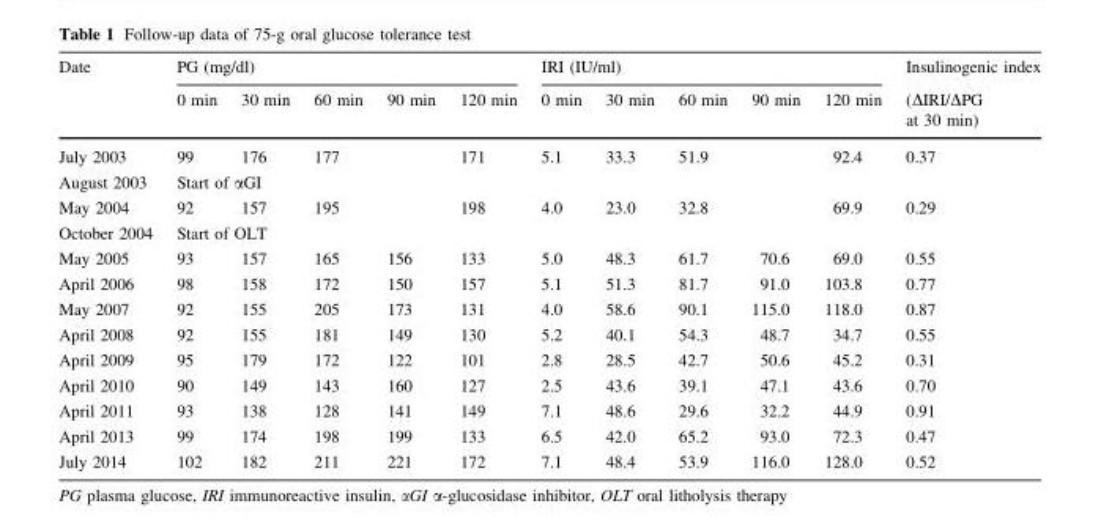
<table><thead><tr><td rowspan="2">Date</td><td colspan="5">PG (mg/dl)</td><td colspan="5">IRI (IU/ml)</td><td rowspan="2">Insulinogenic index (ΔIRI/ΔPG at 30 min)</td></tr><tr><td>0 min</td><td>30 min</td><td>60 min</td><td>90 min</td><td>120 min</td><td>0 min</td><td>30 min</td><td>60 min</td><td>90 min</td><td>120 min</td></tr></thead><tbody><tr><td>July 2003</td><td>99</td><td>176</td><td>177</td><td></td><td>171</td><td>5.1</td><td>33.3</td><td>51.9</td><td></td><td>92.4</td><td>0.37</td></tr><tr><td>August 2003</td><td colspan="11">Start of αGI</td></tr><tr><td>May 2004</td><td>92</td><td>157</td><td>195</td><td></td><td>198</td><td>4.0</td><td>23.0</td><td>32.8</td><td></td><td>69.9</td><td>0.29</td></tr><tr><td>October 2004</td><td colspan="11">Start of OLT</td></tr><tr><td>May 2005</td><td>93</td><td>157</td><td>165</td><td>156</td><td>133</td><td>5.0</td><td>48.3</td><td>61.7</td><td>70.6</td><td>69.0</td><td>0.55</td></tr><tr><td>April 2006</td><td>98</td><td>158</td><td>172</td><td>150</td><td>157</td><td>5.1</td><td>51.3</td><td>81.7</td><td>91.0</td><td>103.8</td><td>0.77</td></tr><tr><td>May 2007</td><td>92</td><td>155</td><td>205</td><td>173</td><td>131</td><td>4.0</td><td>58.6</td><td>90.1</td><td>115.0</td><td>118.0</td><td>0.87</td></tr><tr><td>April 2008</td><td>92</td><td>155</td><td>181</td><td>149</td><td>130</td><td>5.2</td><td>40.1</td><td>54.3</td><td>48.7</td><td>34.7</td><td>0.55</td></tr><tr><td>April 2009</td><td>95</td><td>179</td><td>172</td><td>122</td><td>101</td><td>2.8</td><td>28.5</td><td>42.7</td><td>50.6</td><td>45.2</td><td>0.31</td></tr><tr><td>April 2010</td><td>90</td><td>149</td><td>143</td><td>160</td><td>127</td><td>2.5</td><td>43.6</td><td>39.1</td><td>47.1</td><td>43.6</td><td>0.70</td></tr><tr><td>April 2011</td><td>93</td><td>138</td><td>128</td><td>141</td><td>149</td><td>7.1</td><td>48.6</td><td>29.6</td><td>32.2</td><td>44.9</td><td>0.91</td></tr><tr><td>April 2013</td><td>99</td><td>174</td><td>198</td><td>199</td><td>133</td><td>6.5</td><td>42.0</td><td>65.2</td><td>93.0</td><td>72.3</td><td>0.47</td></tr><tr><td>July 2014</td><td>102</td><td>182</td><td>211</td><td>221</td><td>172</td><td>7.1</td><td>48.4</td><td>53.9</td><td>116.0</td><td>128.0</td><td>0.52</td></tr></tbody></table>